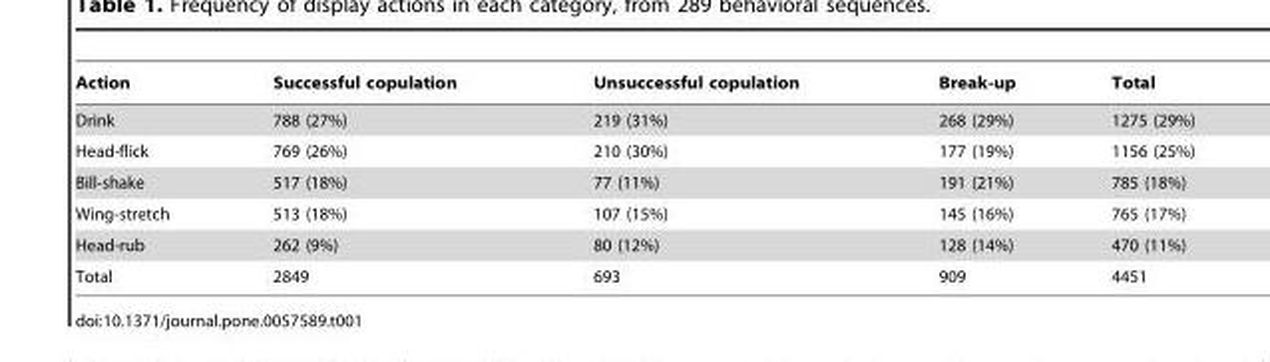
<table><thead><tr><td>Action</td><td>Successful copulation</td><td>Unsuccessful copulation</td><td>Break-up</td><td>Total</td></tr></thead><tbody><tr><td>Drink</td><td>788 (27%)</td><td>219 (31%)</td><td>268 (29%)</td><td>1275 (29%)</td></tr><tr><td>Head-flick</td><td>769 (26%)</td><td>210 (30%)</td><td>177 (19%)</td><td>1156 (25%)</td></tr><tr><td>Bill-shake</td><td>517 (18%)</td><td>77 (11%)</td><td>191 (21%)</td><td>785 (18%)</td></tr><tr><td>Wing-stretch</td><td>513 (18%)</td><td>107 (15%)</td><td>145 (16%)</td><td>765 (17%)</td></tr><tr><td>Head-rub</td><td>262 (9%)</td><td>80 (12%)</td><td>128 (14%)</td><td>470 (11%)</td></tr><tr><td>Total</td><td>2849</td><td>693</td><td>909</td><td>4451</td></tr></tbody></table>